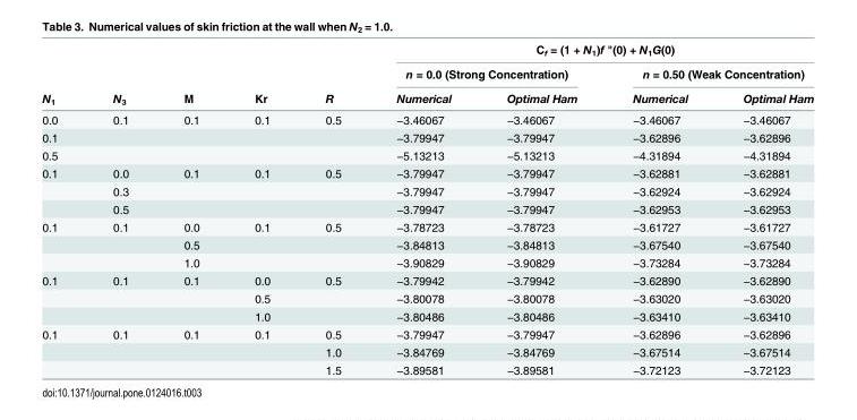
<table><thead><tr><td rowspan="3">N<sub>1</sub></td><td rowspan="3">N<sub>3</sub></td><td rowspan="3">M</td><td rowspan="3">Kr</td><td rowspan="3">R</td><td colspan="4">C<sub>f</sub> = (1 + N<sub>1</sub>)f &quot;(0) + N<sub>1</sub>G(0)</td></tr><tr><td colspan="2">n = 0.0 (Strong Concentration)</td><td colspan="2">n = 0.50 (Weak Concentration)</td></tr><tr><td>Numerical</td><td>Optimal Ham</td><td>Numerical</td><td>Optimal Ham</td></tr></thead><tbody><tr><td>0.0</td><td>0.1</td><td>0.1</td><td>0.1</td><td>0.5</td><td>−3.46067</td><td>−3.46067</td><td>−3.46067</td><td>−3.46067</td></tr><tr><td>0.1</td><td></td><td></td><td></td><td></td><td>−3.79947</td><td>−3.79947</td><td>−3.62896</td><td>−3.62896</td></tr><tr><td>0.5</td><td></td><td></td><td></td><td></td><td>−5.13213</td><td>−5.13213</td><td>−4.31894</td><td>−4.31894</td></tr><tr><td rowspan="3">0.1</td><td>0.0</td><td>0.1</td><td>0.1</td><td>0.5</td><td>−3.79947</td><td>−3.79947</td><td>−3.62881</td><td>−3.62881</td></tr><tr><td>0.3</td><td></td><td></td><td></td><td>−3.79947</td><td>−3.79947</td><td>−3.62924</td><td>−3.62924</td></tr><tr><td>0.5</td><td></td><td></td><td></td><td>−3.79947</td><td>−3.79947</td><td>−3.62953</td><td>−3.62953</td></tr><tr><td rowspan="3">0.1</td><td>0.1</td><td>0.0</td><td>0.1</td><td>0.5</td><td>−3.78723</td><td>−3.78723</td><td>−3.61727</td><td>−3.61727</td></tr><tr><td></td><td>0.5</td><td></td><td></td><td>−3.84813</td><td>−3.84813</td><td>−3.67540</td><td>−3.67540</td></tr><tr><td></td><td>1.0</td><td></td><td></td><td>−3.90829</td><td>−3.90829</td><td>−3.73284</td><td>−3.73284</td></tr><tr><td rowspan="3">0.1</td><td>0.1</td><td>0.1</td><td>0.0</td><td>0.5</td><td>−3.79942</td><td>−3.79942</td><td>−3.62890</td><td>−3.62890</td></tr><tr><td></td><td></td><td>0.5</td><td></td><td>−3.80078</td><td>−3.80078</td><td>−3.63020</td><td>−3.63020</td></tr><tr><td></td><td></td><td>1.0</td><td></td><td>−3.80486</td><td>−3.80486</td><td>−3.63410</td><td>−3.63410</td></tr><tr><td rowspan="3">0.1</td><td>0.1</td><td>0.1</td><td>0.1</td><td>0.5</td><td>−3.79947</td><td>−3.79947</td><td>−3.62896</td><td>−3.62896</td></tr><tr><td></td><td></td><td></td><td>1.0</td><td>−3.84769</td><td>−3.84769</td><td>−3.67514</td><td>−3.67514</td></tr><tr><td></td><td></td><td></td><td>1.5</td><td>−3.89581</td><td>−3.89581</td><td>−3.72123</td><td>−3.72123</td></tr></tbody></table>